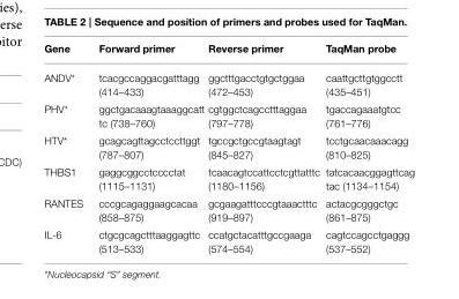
<table><thead><tr><td>Gene</td><td>Forward primer</td><td>Reverse primer</td><td>TaqMan probe</td></tr></thead><tbody><tr><td>ANDV*</td><td>tcacgccaggacgatttagg (414–433)</td><td>ggctttgacctgtgctggaa (472–453)</td><td>caattgcttgtggcctt (435–451)</td></tr><tr><td>PHV*</td><td>ggctgacaaagtaaaggcatt tc (738–760)</td><td>cgtggctcagcctttaggaa (797–778)</td><td>tgaccagaaatgtcc (761–776)</td></tr><tr><td>HTV*</td><td>gcagcagttagcctccttggt (787–807)</td><td>tgccgctgccgtaagtagt (845–827)</td><td>tcctgcaacaaacagg (810–825)</td></tr><tr><td>THBS1</td><td>gaggcggcctcccctat (1115–1131)</td><td>tcaacagtccattcctcgttatttc (1180–1156)</td><td>tatcacaacggagttcag tac (1134–1154)</td></tr><tr><td>RANTES</td><td>cccgcagaggaagcacaa (858–875)</td><td>gcgaagatttcccgtaaactttc (919–897)</td><td>actacgcgggctgc (861–875)</td></tr><tr><td>IL-6</td><td>ctgcgcagctttaaggagttc (513–533)</td><td>ccatgctacatttgccgaaga (574–554)</td><td>cagtccagcctgaggg (537–552)</td></tr></tbody></table>